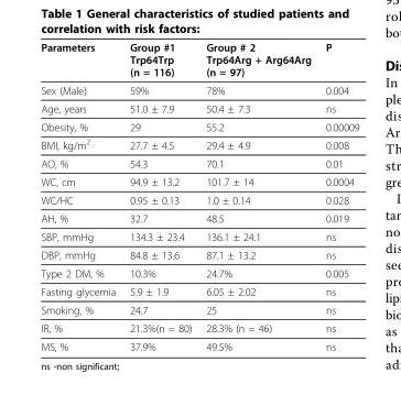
<table><thead><tr><td>Parameters</td><td>Group #1 Trp64Trp (n = 116)</td><td>Group # 2 Trp64Arg + Arg64Arg (n = 97)</td><td>P</td></tr></thead><tbody><tr><td>Sex (Male)</td><td>59%</td><td>78%</td><td>0.004</td></tr><tr><td>Age, years</td><td>51.0 ± 7.9</td><td>50.4 ± 7.3</td><td>ns</td></tr><tr><td>Obesity, %</td><td>29</td><td>55.2</td><td>0.00009</td></tr><tr><td>BMI, kg/m<sup>2</sup></td><td>27.7 ± 4.5</td><td>29.4 ± 4.9</td><td>0.008</td></tr><tr><td>AO, %</td><td>54.3</td><td>70.1</td><td>0.01</td></tr><tr><td>WC, cm</td><td>94.9 ± 13.2</td><td>101.7 ± 14</td><td>0.0004</td></tr><tr><td>WC/HC</td><td>0.95 ± 0.13</td><td>1.0 ± 0.14</td><td>0.028</td></tr><tr><td>AH, %</td><td>32.7</td><td>48.5</td><td>0.019</td></tr><tr><td>SBP, mmHg</td><td>134.3 ± 23.4</td><td>136.1 ± 24.1</td><td>ns</td></tr><tr><td>DBP, mmHg</td><td>84.8 ± 13.6</td><td>87.1 ± 13.2</td><td>ns</td></tr><tr><td>Type 2 DM, %</td><td>10.3%</td><td>24.7%</td><td>0.005</td></tr><tr><td>Fasting glycemia</td><td>5.9 ± 1.9</td><td>6.05 ± 2.02</td><td>ns</td></tr><tr><td>Smoking, %</td><td>24.7</td><td>25</td><td>ns</td></tr><tr><td>IR, %</td><td>21.3%(n = 80)</td><td>28.3% (n = 46)</td><td>ns</td></tr><tr><td>MS, %</td><td>37.9%</td><td>49.5%</td><td>ns</td></tr></tbody></table>